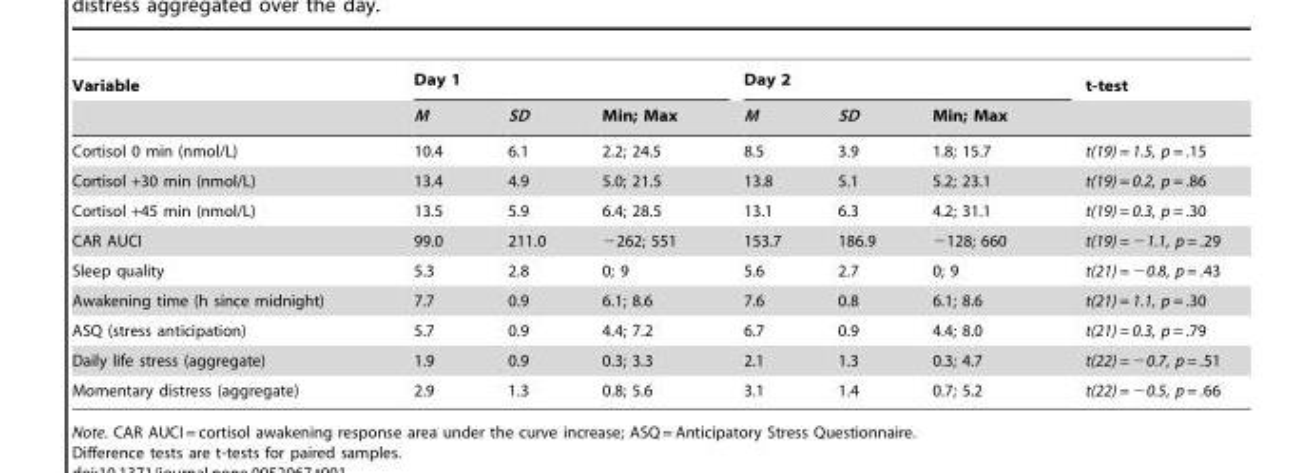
<table><thead><tr><td rowspan="2">Variable</td><td colspan="3">Day 1</td><td colspan="3">Day 2</td><td rowspan="2">t-test</td></tr><tr><td>M</td><td>SD</td><td>Min; Max</td><td>M</td><td>SD</td><td>Min; Max</td></tr></thead><tbody><tr><td>Cortisol 0 min (nmol/L)</td><td>10.4</td><td>6.1</td><td>2.2; 24.5</td><td>8.5</td><td>3.9</td><td>1.8; 15.7</td><td>t(19) = 1.5, p = .15</td></tr><tr><td>Cortisol +30 min (nmol/L)</td><td>13.4</td><td>4.9</td><td>5.0; 21.5</td><td>13.8</td><td>5.1</td><td>5.2; 23.1</td><td>t(19) = 0.2, p = .86</td></tr><tr><td>Cortisol +45 min (nmol/L)</td><td>13.5</td><td>5.9</td><td>6.4; 28.5</td><td>13.1</td><td>6.3</td><td>4.2; 31.1</td><td>t(19) = 0.3, p = .30</td></tr><tr><td>CAR AUCI</td><td>99.0</td><td>211.0</td><td>−262; 551</td><td>153.7</td><td>186.9</td><td>−128; 660</td><td>t(19) = −1.1, p = .29</td></tr><tr><td>Sleep quality</td><td>5.3</td><td>2.8</td><td>0; 9</td><td>5.6</td><td>2.7</td><td>0; 9</td><td>t(21) = −0.8, p = .43</td></tr><tr><td>Awakening time (h since midnight)</td><td>7.7</td><td>0.9</td><td>6.1; 8.6</td><td>7.6</td><td>0.8</td><td>6.1; 8.6</td><td>t(21) = 1.1, p = .30</td></tr><tr><td>ASQ (stress anticipation)</td><td>5.7</td><td>0.9</td><td>4.4; 7.2</td><td>6.7</td><td>0.9</td><td>4.4; 8.0</td><td>t(21) = 0.3, p = .79</td></tr><tr><td>Daily life stress (aggregate)</td><td>1.9</td><td>0.9</td><td>0.3; 3.3</td><td>2.1</td><td>1.3</td><td>0.3; 4.7</td><td>t(22) = −0.7, p = .51</td></tr><tr><td>Momentary distress (aggregate)</td><td>2.9</td><td>1.3</td><td>0.8; 5.6</td><td>3.1</td><td>1.4</td><td>0.7; 5.2</td><td>t(22) = −0.5, p = .66</td></tr></tbody></table>